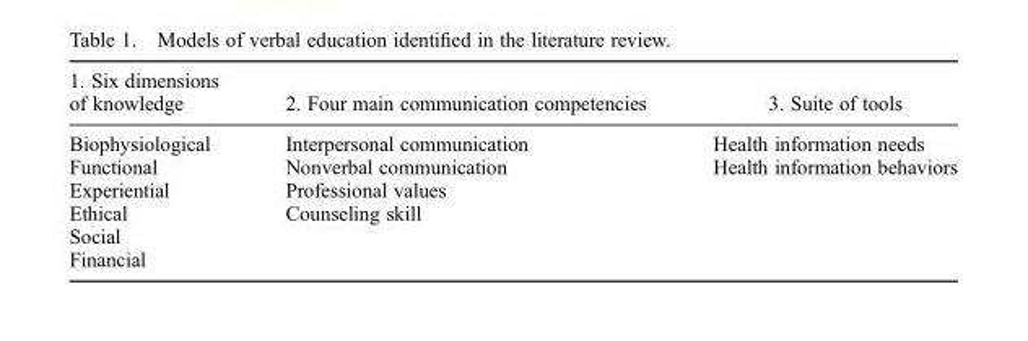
<table><thead><tr><td>1. Six dimensions of knowledge</td><td>2. Four main communication competencies</td><td>3. Suite of tools</td></tr></thead><tbody><tr><td>Biophysiological</td><td>Interpersonal communication</td><td>Health information needs</td></tr><tr><td>Functional</td><td>Nonverbal communication</td><td>Health information behaviors</td></tr><tr><td>Experiential</td><td>Professional values</td><td></td></tr><tr><td>Ethical</td><td>Counseling skill</td><td></td></tr><tr><td colspan="3">Social</td></tr><tr><td>Financial</td><td></td><td></td></tr></tbody></table>